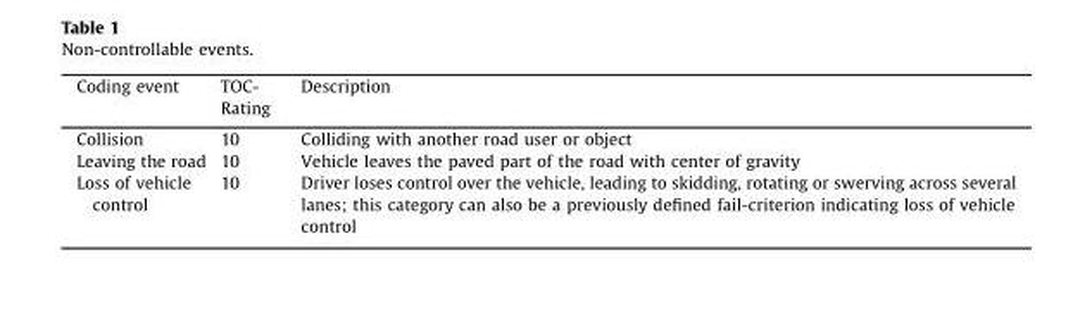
<table><thead><tr><td>Coding event</td><td>TOC- Rating</td><td>Description</td></tr></thead><tbody><tr><td>Collision</td><td>10</td><td>Colliding with another road user or object</td></tr><tr><td>Leaving the road</td><td>10</td><td>Vehicle leaves the paved part of the road with center of gravity</td></tr><tr><td>Loss of vehicle control</td><td>10</td><td>Driver loses control over the vehicle, leading to skidding, rotating or swerving across several lanes; this category can also be a previously defined fail-criterion indicating loss of vehicle control</td></tr></tbody></table>